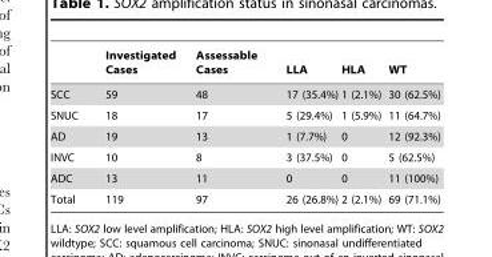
<table><thead><tr><td></td><td>Investigated Cases</td><td>Assessable Cases</td><td>LLA</td><td>HLA</td><td>WT</td></tr></thead><tbody><tr><td>SCC</td><td>59</td><td>48</td><td>17 (35.4%)</td><td>1 (2.1%)</td><td>30 (62.5%)</td></tr><tr><td>SNUC</td><td>18</td><td>17</td><td>5 (29.4%)</td><td>1 (5.9%)</td><td>11 (64.7%)</td></tr><tr><td>AD</td><td>19</td><td>13</td><td>1 (7.7%)</td><td>0</td><td>12 (92.3%)</td></tr><tr><td>INVC</td><td>10</td><td>8</td><td>3 (37.5%)</td><td>0</td><td>5 (62.5%)</td></tr><tr><td>ADC</td><td>13</td><td>11</td><td>0</td><td>0</td><td>11 (100%)</td></tr><tr><td>Total</td><td>119</td><td>97</td><td>26 (26.8%)</td><td>2 (2.1%)</td><td>69 (71.1%)</td></tr></tbody></table>